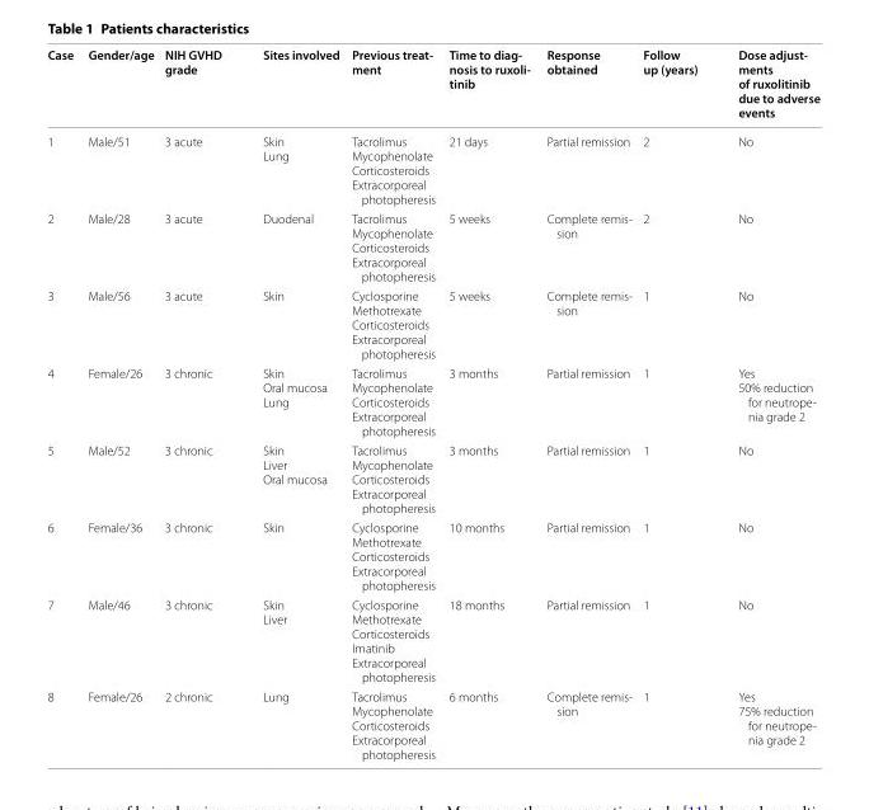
<table><thead><tr><td>Case</td><td>Gender/age</td><td>NIH GVHD grade</td><td>Sites involved</td><td>Previous treat- ment</td><td>Time to diag- nosis to ruxoli- tinib</td><td>Response obtained</td><td>Follow up (years)</td><td>Dose adjust- ments of ruxolitinib due to adverse events</td></tr></thead><tbody><tr><td>1</td><td>Male/51</td><td>3 acute</td><td>Skin Lung</td><td>Tacrolimus Mycophenolate Corticosteroids Extracorporeal photopheresis</td><td>21 days</td><td>Partial remission</td><td>2</td><td>No</td></tr><tr><td>2</td><td>Male/28</td><td>3 acute</td><td>Duodenal</td><td>Tacrolimus Mycophenolate Corticosteroids Extracorporeal photopheresis</td><td>5 weeks</td><td>Complete remis‑ sion</td><td>2</td><td>No</td></tr><tr><td>3</td><td>Male/56</td><td>3 acute</td><td>Skin</td><td>Cyclosporine Methotrexate Corticosteroids Extracorporeal photopheresis</td><td>5 weeks</td><td>Complete remis‑ sion</td><td>1</td><td>No</td></tr><tr><td>4</td><td>Female/26</td><td>3 chronic</td><td>Skin Oral mucosa Lung</td><td>Tacrolimus Mycophenolate Corticosteroids Extracorporeal photopheresis</td><td>3 months</td><td>Partial remission</td><td>1</td><td>Yes 50% reduction for neutrope‑ nia grade 2</td></tr><tr><td>5</td><td>Male/52</td><td>3 chronic</td><td>Skin Liver Oral mucosa</td><td>Tacrolimus Mycophenolate Corticosteroids Extracorporeal photopheresis</td><td>3 months</td><td>Partial remission</td><td>1</td><td>No</td></tr><tr><td>6</td><td>Female/36</td><td>3 chronic</td><td>Skin</td><td>Cyclosporine Methotrexate Corticosteroids Extracorporeal photopheresis</td><td>10 months</td><td>Partial remission</td><td>1</td><td>No</td></tr><tr><td>7</td><td>Male/46</td><td>3 chronic</td><td>Skin Liver</td><td>Cyclosporine Methotrexate Corticosteroids Imatinib Extracorporeal photopheresis</td><td>18 months</td><td>Partial remission</td><td>1</td><td>No</td></tr><tr><td>8</td><td>Female/26</td><td>2 chronic</td><td>Lung</td><td>Tacrolimus Mycophenolate Corticosteroids Extracorporeal photopheresis</td><td>6 months</td><td>Complete remis‑ sion</td><td>1</td><td>Yes 75% reduction for neutrope‑ nia grade 2</td></tr></tbody></table>